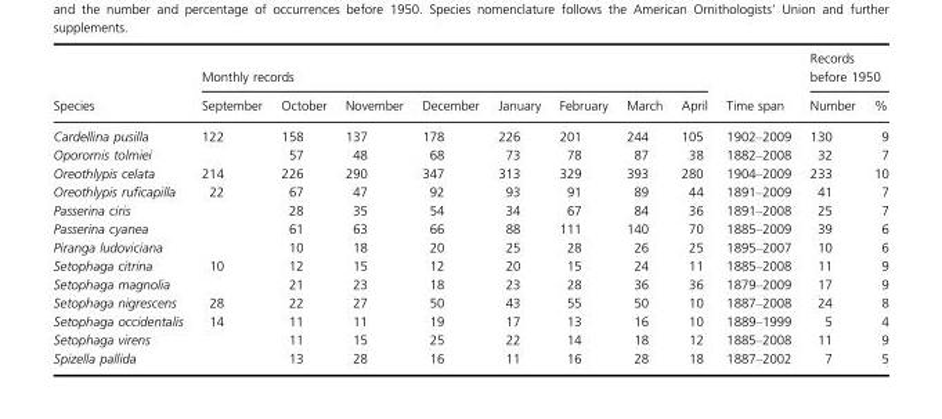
<table><thead><tr><td rowspan="2">Species</td><td colspan="8">Monthly records</td><td rowspan="2">Time span</td><td colspan="2">Records before 1950</td></tr><tr><td>September</td><td>October</td><td>November</td><td>December</td><td>January</td><td>February</td><td>March</td><td>April</td><td>Number</td><td>%</td></tr></thead><tbody><tr><td>Cardellina pusilla</td><td>122</td><td>158</td><td>137</td><td>178</td><td>226</td><td>201</td><td>244</td><td>105</td><td>1902–2009</td><td>130</td><td>9</td></tr><tr><td>Oporornis tolmiei</td><td></td><td>57</td><td>48</td><td>68</td><td>73</td><td>78</td><td>87</td><td>38</td><td>1882–2008</td><td>32</td><td>7</td></tr><tr><td>Oreothlypis celata</td><td>214</td><td>226</td><td>290</td><td>347</td><td>313</td><td>329</td><td>393</td><td>280</td><td>1904–2009</td><td>233</td><td>10</td></tr><tr><td>Oreothlypis ruficapilla</td><td>22</td><td>67</td><td>47</td><td>92</td><td>93</td><td>91</td><td>89</td><td>44</td><td>1891–2009</td><td>41</td><td>7</td></tr><tr><td>Passerina ciris</td><td></td><td>28</td><td>35</td><td>54</td><td>34</td><td>67</td><td>84</td><td>36</td><td>1891–2008</td><td>25</td><td>7</td></tr><tr><td>Passerina cyanea</td><td></td><td>61</td><td>63</td><td>66</td><td>88</td><td>111</td><td>140</td><td>70</td><td>1885–2009</td><td>39</td><td>6</td></tr><tr><td>Piranga ludoviciana</td><td></td><td>10</td><td>18</td><td>20</td><td>25</td><td>28</td><td>26</td><td>25</td><td>1895–2007</td><td>10</td><td>6</td></tr><tr><td>Setophaga citrina</td><td>10</td><td>12</td><td>15</td><td>12</td><td>20</td><td>15</td><td>24</td><td>11</td><td>1885–2008</td><td>11</td><td>9</td></tr><tr><td>Setophaga magnolia</td><td></td><td>21</td><td>23</td><td>18</td><td>23</td><td>28</td><td>36</td><td>36</td><td>1879–2009</td><td>17</td><td>9</td></tr><tr><td>Setophaga nigrescens</td><td>28</td><td>22</td><td>27</td><td>50</td><td>43</td><td>55</td><td>50</td><td>10</td><td>1887–2008</td><td>24</td><td>8</td></tr><tr><td>Setophaga occidentalis</td><td>14</td><td>11</td><td>11</td><td>19</td><td>17</td><td>13</td><td>16</td><td>10</td><td>1889–1999</td><td>5</td><td>4</td></tr><tr><td>Setophaga virens</td><td></td><td>11</td><td>15</td><td>25</td><td>22</td><td>14</td><td>18</td><td>12</td><td>1885–2008</td><td>11</td><td>9</td></tr><tr><td>Spizella pallida</td><td></td><td>13</td><td>28</td><td>16</td><td>11</td><td>16</td><td>28</td><td>18</td><td>1887–2002</td><td>7</td><td>5</td></tr></tbody></table>